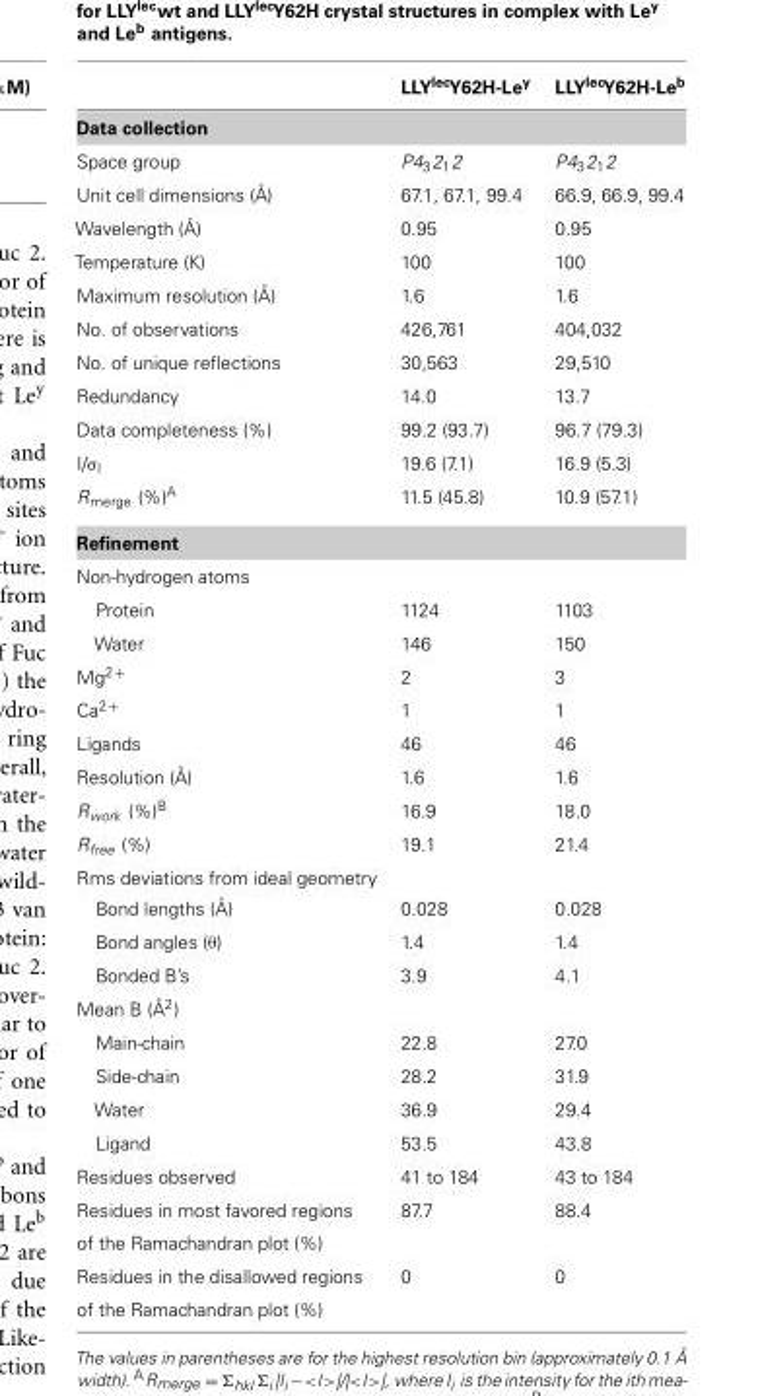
<table><thead><tr><td rowspan="2">Data collection</td><td rowspan="2">LLY<sup>lec</sup>Y62H-Le<sup>y</sup></td><td rowspan="2">LLY<sup>lec</sup>Y62H-Le<sup>b</sup></td></tr><tr></tr></thead><tbody><tr><td>Space group</td><td>P4<sub>3</sub>2<sub>1</sub>2</td><td>P4<sub>3</sub>2<sub>1</sub>2</td></tr><tr><td>Unit cell dimensions (Å)</td><td>67.1, 67.1, 99.4</td><td>66.9, 66.9, 99.4</td></tr><tr><td>Wavelength (Å)</td><td>0.95</td><td>0.95</td></tr><tr><td>Temperature (K)</td><td>100</td><td>100</td></tr><tr><td>Maximum resolution (Å)</td><td>1.6</td><td>1.6</td></tr><tr><td>No. of observations</td><td>426,761</td><td>404,032</td></tr><tr><td>No. of unique reflections</td><td>30,563</td><td>29,510</td></tr><tr><td>Redundancy</td><td>14.0</td><td>13.7</td></tr><tr><td>Data completeness (%)</td><td>99.2 (93.7)</td><td>96.7 (79.3)</td></tr><tr><td>I/σI</td><td>19.6 (7.1)</td><td>16.9 (5.3)</td></tr><tr><td>Rmerge (%)A</td><td>11.5 (45.8)</td><td>10.9 (57.1)</td></tr><tr><td colspan="3">Refinement</td></tr><tr><td colspan="3">Non-hydrogen atoms</td></tr><tr><td>Protein</td><td>1124</td><td>1103</td></tr><tr><td>Water</td><td>146</td><td>150</td></tr><tr><td>Mg<sup>2+</sup></td><td>2</td><td>3</td></tr><tr><td>Ca<sup>2+</sup></td><td>1</td><td>1</td></tr><tr><td>Ligands</td><td>46</td><td>46</td></tr><tr><td>Resolution (Å)</td><td>1.6</td><td>1.6</td></tr><tr><td>R<sub>work</sub> (%)<sup>B</sup></td><td>16.9</td><td>18.0</td></tr><tr><td>R<sub>free</sub> (%)</td><td>19.1</td><td>21.4</td></tr><tr><td colspan="3">Rms deviations from ideal geometry</td></tr><tr><td>Bond lengths (Å)</td><td>0.028</td><td>0.028</td></tr><tr><td>Bond angles (θ)</td><td>1.4</td><td>1.4</td></tr><tr><td>Bonded B’s</td><td>3.9</td><td>4.1</td></tr><tr><td colspan="3">Mean B (Å<sup>2</sup>)</td></tr><tr><td>Main-chain</td><td>22.8</td><td>27.0</td></tr><tr><td>Side-chain</td><td>28.2</td><td>31.9</td></tr><tr><td>Water</td><td>36.9</td><td>29.4</td></tr><tr><td>Ligand</td><td>53.5</td><td>43.8</td></tr><tr><td>Residues observed</td><td>41 to 184</td><td>43 to 184</td></tr><tr><td>Residues in most favored regions of the Ramachandran plot (%)</td><td>87.7</td><td>88.4</td></tr><tr><td>Residues in the disallowed regions of the Ramachandran plot (%)</td><td>0</td><td>0</td></tr></tbody></table>